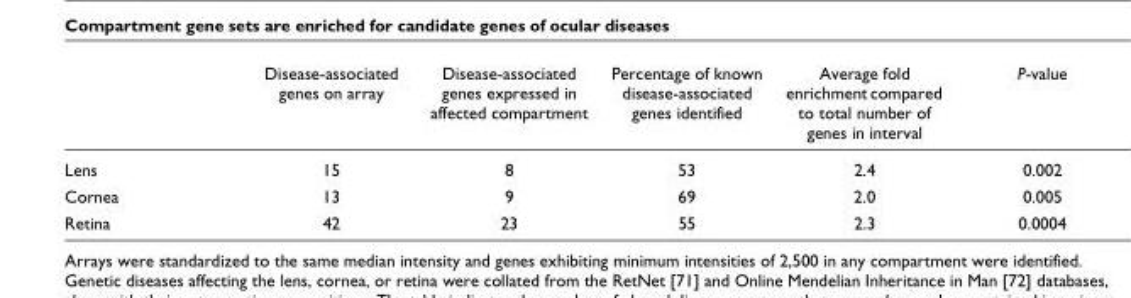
<table><thead><tr><td></td><td>Disease-associated genes on array</td><td>Disease-associated genes expressed in affected compartment</td><td>Percentage of known disease-associated genes identified</td><td>Average fold enrichment compared to total number of genes in interval</td><td>P-value</td></tr></thead><tbody><tr><td>Lens</td><td>15</td><td>8</td><td>53</td><td>2.4</td><td>0.002</td></tr><tr><td>Cornea</td><td>13</td><td>9</td><td>69</td><td>2.0</td><td>0.005</td></tr><tr><td>Retina</td><td>42</td><td>23</td><td>55</td><td>2.3</td><td>0.0004</td></tr></tbody></table>